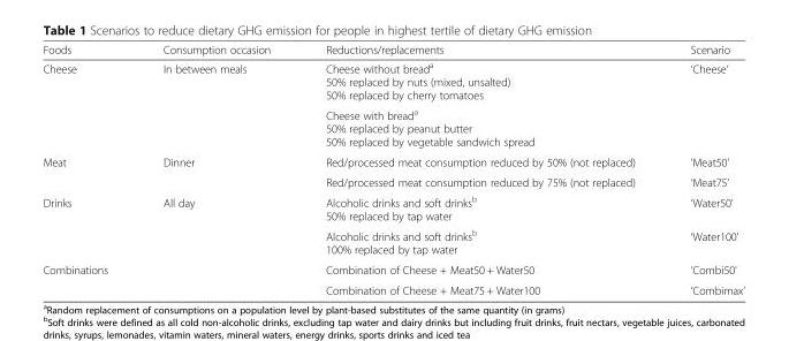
<table><thead><tr><td>Foods</td><td>Consumption occasion</td><td>Reductions/replacements</td><td>Scenario</td></tr></thead><tbody><tr><td rowspan="2">Cheese</td><td>In between meals</td><td>Cheese without bread<sup>a</sup> 50% replaced by nuts (mixed, unsalted) 50% replaced by cherry tomatoes</td><td rowspan="2">‘Cheese’</td></tr><tr><td></td><td>Cheese with bread<sup>a</sup> 50% replaced by peanut butter 50% replaced by vegetable sandwich spread</td></tr><tr><td rowspan="2">Meat</td><td>Dinner</td><td>Red/processed meat consumption reduced by 50% (not replaced)</td><td>‘Meat50’</td></tr><tr><td></td><td>Red/processed meat consumption reduced by 75% (not replaced)</td><td>‘Meat75’</td></tr><tr><td rowspan="2">Drinks</td><td>All day</td><td>Alcoholic drinks and soft drinks<sup>b</sup> 50% replaced by tap water</td><td>‘Water50’</td></tr><tr><td></td><td>Alcoholic drinks and soft drinks<sup>b</sup> 100% replaced by tap water</td><td>‘Water100’</td></tr><tr><td rowspan="2">Combinations</td><td></td><td>Combination of Cheese + Meat50 + Water50</td><td>‘Combi50’</td></tr><tr><td></td><td>Combination of Cheese + Meat75 + Water100</td><td>‘Combimax’</td></tr></tbody></table>